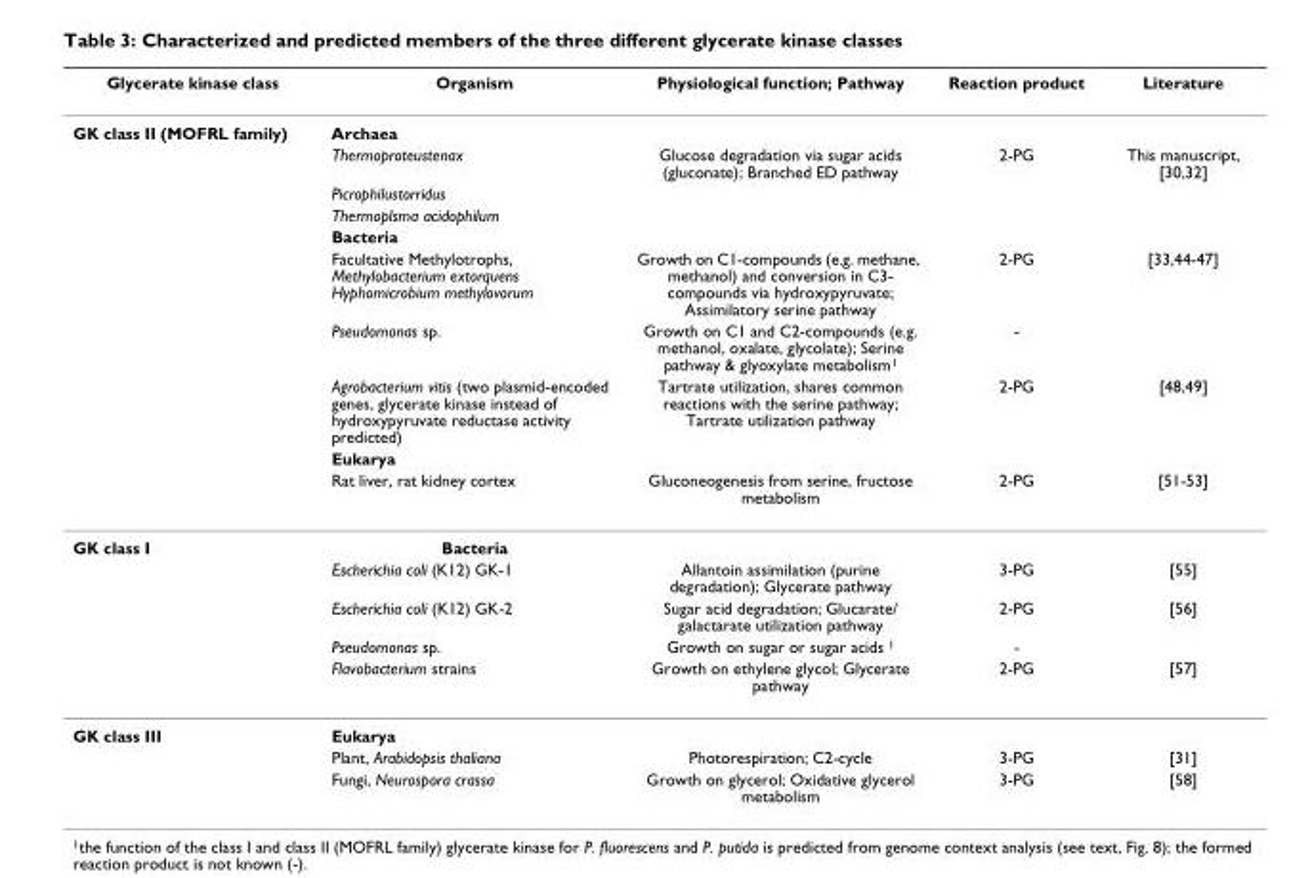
<table><thead><tr><td>Glycerate kinase class</td><td>Organism</td><td>Physiological function; Pathway</td><td>Reaction product</td><td>Literature</td></tr></thead><tbody><tr><td rowspan="10">GK class II (MOFRL family)</td><td>Archaea</td><td></td><td></td><td></td></tr><tr><td>Thermoproteustenax</td><td>Glucose degradation via sugar acids (gluconate); Branched ED pathway</td><td>2-PG</td><td>This manuscript, [30,32]</td></tr><tr><td>Picrophilustorridus</td><td></td><td></td><td></td></tr><tr><td>Thermoplsma acidophilum</td><td></td><td></td><td></td></tr><tr><td>Bacteria</td><td></td><td></td><td></td></tr><tr><td>Facultative Methylotrophs, Methylobacterium extorquens Hyphomicrobium methylovorum</td><td>Growth on C1-compounds (e.g. methane, methanol) and conversion in C3- compounds via hydroxypyruvate; Assimilatory serine pathway</td><td>2-PG</td><td>[33,44-47]</td></tr><tr><td>Pseudomonas sp.</td><td>Growth on C1 and C2-compounds (e.g. methanol, oxalate, glycolate); Serine pathway &amp; glyoxylate metabolism<sup>1</sup></td><td>-</td><td></td></tr><tr><td>Agrobacterium vitis (two plasmid-encoded genes, glycerate kinase instead of hydroxypyruvate reductase activity predicted)</td><td>Tartrate utilization, shares common reactions with the serine pathway; Tartrate utilization pathway</td><td>2-PG</td><td>[48,49]</td></tr><tr><td>Eukarya</td><td></td><td></td><td></td></tr><tr><td>Rat liver, rat kidney cortex</td><td>Gluconeogenesis from serine, fructose metabolism</td><td>2-PG</td><td>[51-53]</td></tr><tr><td rowspan="5">GK class I</td><td>Bacteria</td><td></td><td></td><td></td></tr><tr><td>Escherichia coli (K12) GK-1</td><td>Allantoin assimilation (purine degradation); Glycerate pathway</td><td>3-PG</td><td>[55]</td></tr><tr><td>Escherichia coli (K12) GK-2</td><td>Sugar acid degradation; Glucarate/ galactarate utilization pathway</td><td>2-PG</td><td>[56]</td></tr><tr><td>Pseudomonas sp.</td><td>Growth on sugar or sugar acids <sup>1</sup></td><td>-</td><td></td></tr><tr><td>Flavobacterium strains</td><td>Growth on ethylene glycol; Glycerate pathway</td><td>2-PG</td><td>[57]</td></tr><tr><td rowspan="3">GK class III</td><td>Eukarya</td><td></td><td></td><td></td></tr><tr><td>Plant, Arabidopsis thaliana</td><td>Photorespiration; C2-cycle</td><td>3-PG</td><td>[31]</td></tr><tr><td>Fungi, Neurospora crassa</td><td>Growth on glycerol; Oxidative glycerol metabolism</td><td>3-PG</td><td>[58]</td></tr></tbody></table>